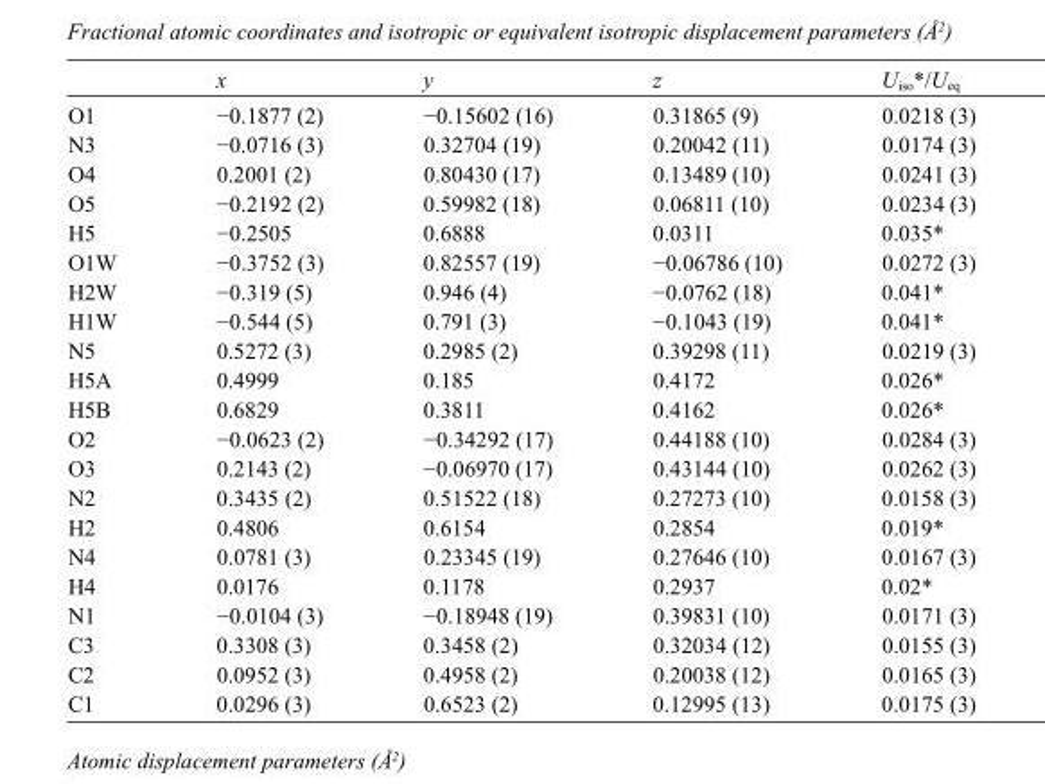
<table><thead><tr><td></td><td>x</td><td>y</td><td>z</td><td>U<sub>iso</sub>*/U<sub>eq</sub></td></tr></thead><tbody><tr><td>O1</td><td>−0.1877 (2)</td><td>−0.15602 (16)</td><td>0.31865 (9)</td><td>0.0218 (3)</td></tr><tr><td>N3</td><td>−0.0716 (3)</td><td>0.32704 (19)</td><td>0.20042 (11)</td><td>0.0174 (3)</td></tr><tr><td>O4</td><td>0.2001 (2)</td><td>0.80430 (17)</td><td>0.13489 (10)</td><td>0.0241 (3)</td></tr><tr><td>O5</td><td>−0.2192 (2)</td><td>0.59982 (18)</td><td>0.06811 (10)</td><td>0.0234 (3)</td></tr><tr><td>H5</td><td>−0.2505</td><td>0.6888</td><td>0.0311</td><td>0.035*</td></tr><tr><td>O1W</td><td>−0.3752 (3)</td><td>0.82557 (19)</td><td>−0.06786 (10)</td><td>0.0272 (3)</td></tr><tr><td>H2W</td><td>−0.319 (5)</td><td>0.946 (4)</td><td>−0.0762 (18)</td><td>0.041*</td></tr><tr><td>H1W</td><td>−0.544 (5)</td><td>0.791 (3)</td><td>−0.1043 (19)</td><td>0.041*</td></tr><tr><td>N5</td><td>0.5272 (3)</td><td>0.2985 (2)</td><td>0.39298 (11)</td><td>0.0219 (3)</td></tr><tr><td>H5A</td><td>0.4999</td><td>0.185</td><td>0.4172</td><td>0.026*</td></tr><tr><td>H5B</td><td>0.6829</td><td>0.3811</td><td>0.4162</td><td>0.026*</td></tr><tr><td>O2</td><td>−0.0623 (2)</td><td>−0.34292 (17)</td><td>0.44188 (10)</td><td>0.0284 (3)</td></tr><tr><td>O3</td><td>0.2143 (2)</td><td>−0.06970 (17)</td><td>0.43144 (10)</td><td>0.0262 (3)</td></tr><tr><td>N2</td><td>0.3435 (2)</td><td>0.51522 (18)</td><td>0.27273 (10)</td><td>0.0158 (3)</td></tr><tr><td>H2</td><td>0.4806</td><td>0.6154</td><td>0.2854</td><td>0.019*</td></tr><tr><td>N4</td><td>0.0781 (3)</td><td>0.23345 (19)</td><td>0.27646 (10)</td><td>0.0167 (3)</td></tr><tr><td>H4</td><td>0.0176</td><td>0.1178</td><td>0.2937</td><td>0.02*</td></tr><tr><td>N1</td><td>−0.0104 (3)</td><td>−0.18948 (19)</td><td>0.39831 (10)</td><td>0.0171 (3)</td></tr><tr><td>C3</td><td>0.3308 (3)</td><td>0.3458 (2)</td><td>0.32034 (12)</td><td>0.0155 (3)</td></tr><tr><td>C2</td><td>0.0952 (3)</td><td>0.4958 (2)</td><td>0.20038 (12)</td><td>0.0165 (3)</td></tr><tr><td>C1</td><td>0.0296 (3)</td><td>0.6523 (2)</td><td>0.12995 (13)</td><td>0.0175 (3)</td></tr></tbody></table>